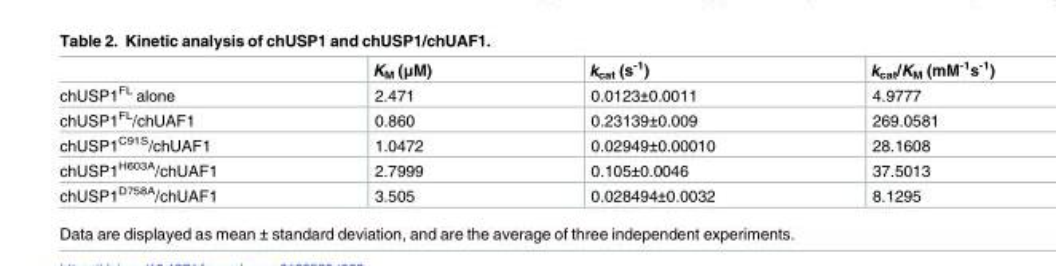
<table><thead><tr><td></td><td>K<sub>M</sub> (μM)</td><td>k<sub>cat</sub> (s<sup>-1</sup>)</td><td>k<sub>cat</sub>/K<sub>M</sub> (mM<sup>-1</sup>s<sup>-1</sup>)</td></tr></thead><tbody><tr><td>chUSP1<sup>FL</sup> alone</td><td>2.471</td><td>0.0123±0.0011</td><td>4.9777</td></tr><tr><td>chUSP1<sup>FL</sup>/chUAF1</td><td>0.860</td><td>0.23139±0.009</td><td>269.0581</td></tr><tr><td>chUSP1<sup>C91S</sup>/chUAF1</td><td>1.0472</td><td>0.02949±0.00010</td><td>28.1608</td></tr><tr><td>chUSP1<sup>H603A</sup>/chUAF1</td><td>2.7999</td><td>0.105±0.0046</td><td>37.5013</td></tr><tr><td>chUSP1<sup>D758A</sup>/chUAF1</td><td>3.505</td><td>0.028494±0.0032</td><td>8.1295</td></tr></tbody></table>